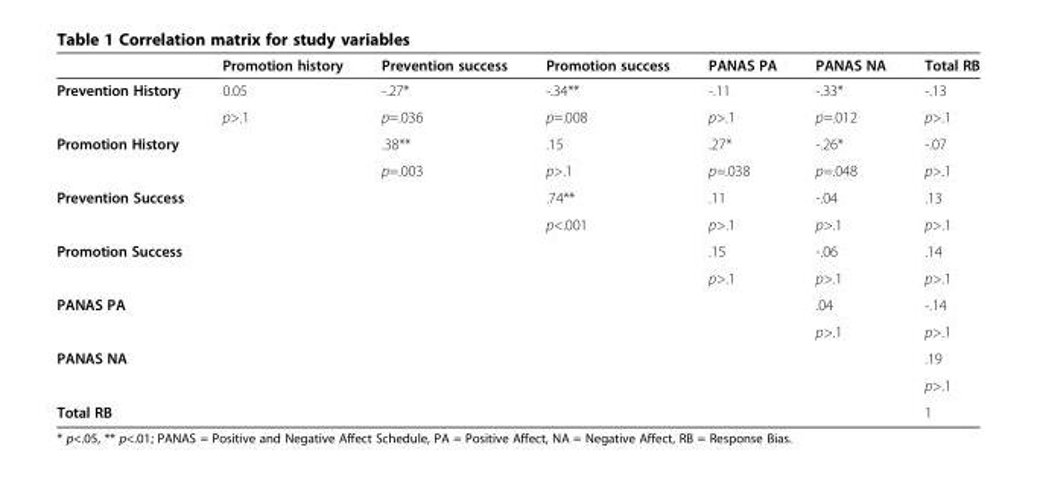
<table><thead><tr><td></td><td>Promotion history</td><td>Prevention success</td><td>Promotion success</td><td>PANAS PA</td><td>PANAS NA</td><td>Total RB</td></tr></thead><tbody><tr><td rowspan="2">Prevention History</td><td>0.05</td><td>-.27*</td><td>-.34**</td><td>-.11</td><td>-.33*</td><td>-.13</td></tr><tr><td>p&gt;.1</td><td>p=.036</td><td>p=.008</td><td>p&gt;.1</td><td>p=.012</td><td>p&gt;.1</td></tr><tr><td rowspan="2">Promotion History</td><td rowspan="2"></td><td>.38**</td><td>.15</td><td>.27*</td><td>-.26*</td><td>-.07</td></tr><tr><td>p=.003</td><td>p&gt;.1</td><td>p=.038</td><td>p=.048</td><td>p&gt;.1</td></tr><tr><td rowspan="2">Prevention Success</td><td rowspan="2"></td><td rowspan="2"></td><td>.74**</td><td>.11</td><td>-.04</td><td>.13</td></tr><tr><td>p&lt;.001</td><td>p&gt;.1</td><td>p&gt;.1</td><td>p&gt;.1</td></tr><tr><td rowspan="2">Promotion Success</td><td rowspan="2"></td><td rowspan="2"></td><td rowspan="2"></td><td>.15</td><td>-.06</td><td>.14</td></tr><tr><td>p&gt;.1</td><td>p&gt;.1</td><td>p&gt;.1</td></tr><tr><td rowspan="2">PANAS PA</td><td rowspan="2"></td><td rowspan="2"></td><td rowspan="2"></td><td rowspan="2"></td><td>.04</td><td>-.14</td></tr><tr><td>p&gt;.1</td><td>p&gt;.1</td></tr><tr><td rowspan="2">PANAS NA</td><td rowspan="2"></td><td rowspan="2"></td><td rowspan="2"></td><td rowspan="2"></td><td rowspan="2"></td><td>.19</td></tr><tr><td>p&gt;.1</td></tr><tr><td>Total RB</td><td></td><td></td><td></td><td></td><td></td><td>1</td></tr></tbody></table>